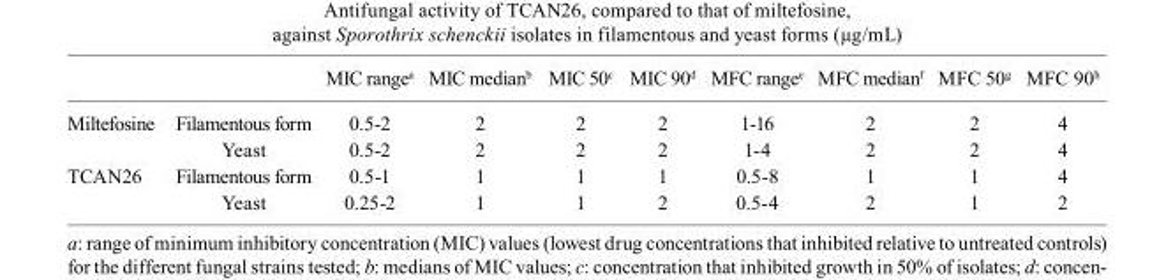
<table><thead><tr><td></td><td></td><td>MIC range<sup>a</sup></td><td>MIC median<sup>b</sup></td><td>MIC 50<sup>c</sup></td><td>MIC 90<sup>d</sup></td><td>MFC range<sup>e</sup></td><td>MFC median<sup>f</sup></td><td>MFC 50<sup>g</sup></td><td>MFC 90<sup>h</sup></td></tr></thead><tbody><tr><td rowspan="2">Miltefosine</td><td>Filamentous form</td><td>0.5-2</td><td>2</td><td>2</td><td>2</td><td>1-16</td><td>2</td><td>2</td><td>4</td></tr><tr><td>Yeast</td><td>0.5-2</td><td>2</td><td>2</td><td>2</td><td>1-4</td><td>2</td><td>2</td><td>4</td></tr><tr><td rowspan="2">TCAN26</td><td>Filamentous form</td><td>0.5-1</td><td>1</td><td>1</td><td>1</td><td>0.5-8</td><td>1</td><td>1</td><td>4</td></tr><tr><td>Yeast</td><td>0.25-2</td><td>1</td><td>1</td><td>2</td><td>0.5-4</td><td>2</td><td>1</td><td>2</td></tr></tbody></table>